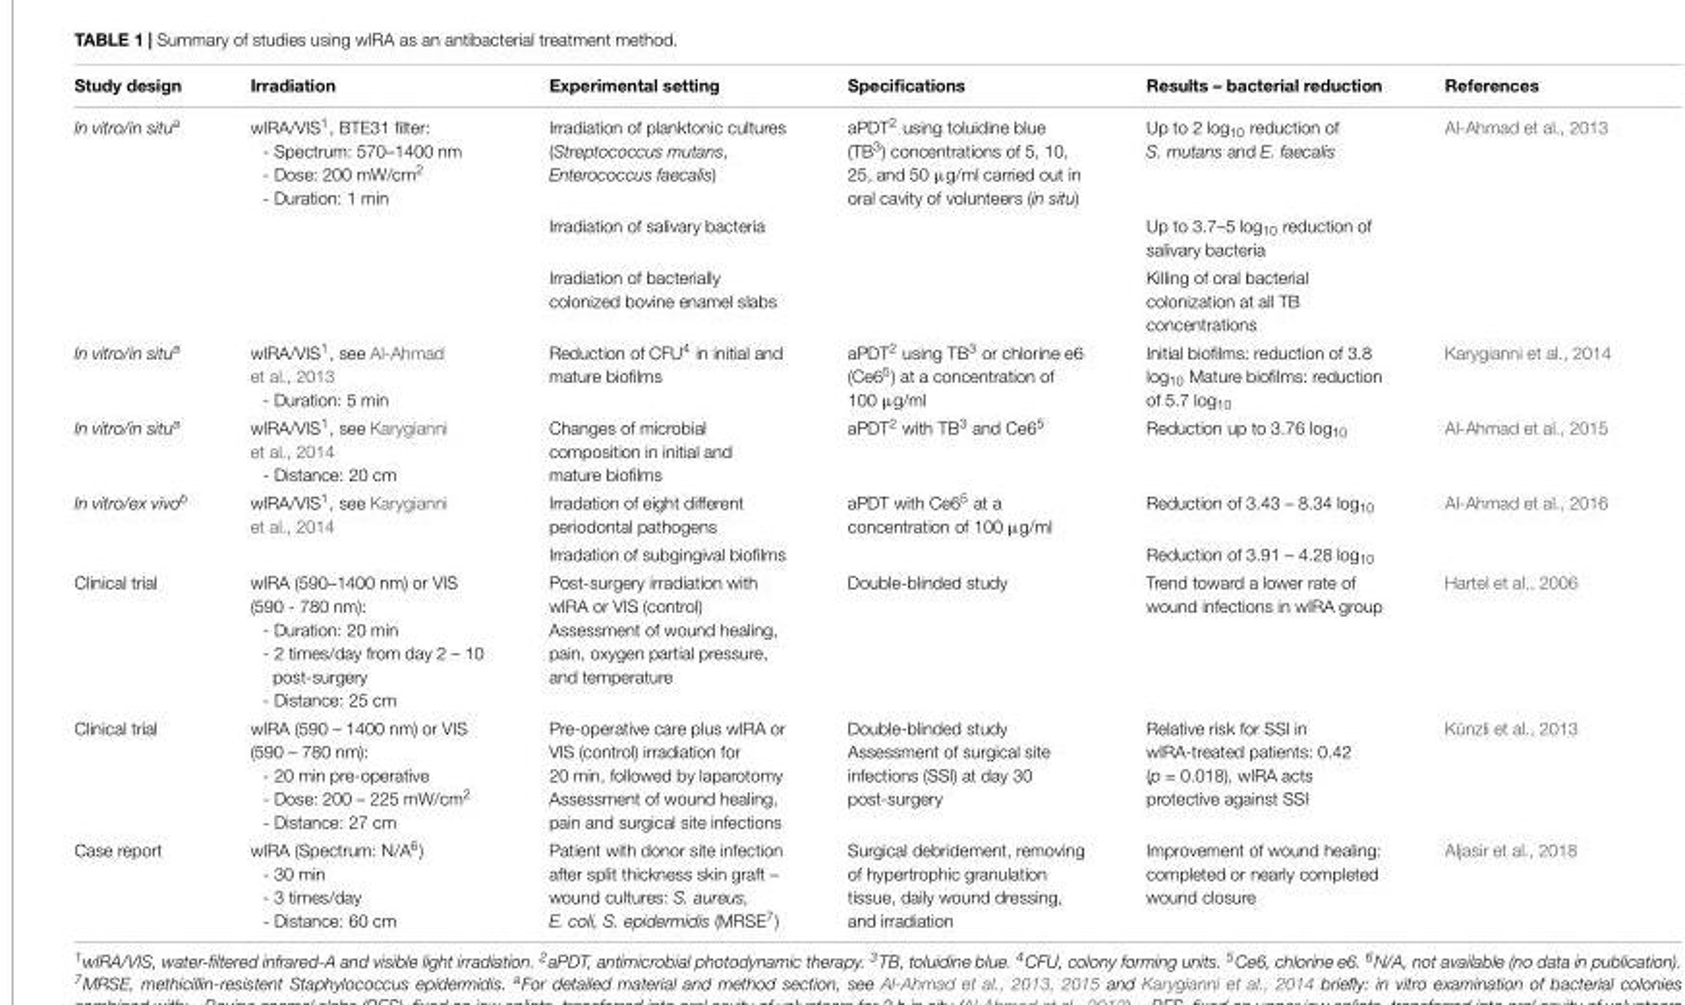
<table><thead><tr><td>Study design</td><td>Irradiation</td><td>Experimental setting</td><td>Specifications</td><td>Results – bacterial reduction</td><td>References</td></tr></thead><tbody><tr><td rowspan="3">In vitro/in situ<sup>a</sup></td><td>wIRA/VIS<sup>1</sup>, BTE31 filter: - Spectrum: 570–1400 nm - Dose: 200 mW/cm<sup>2</sup> - Duration: 1 min</td><td>Irradiation of planktonic cultures (Streptococcus mutans, Enterococcus faecalis)</td><td>aPDT<sup>2</sup> using toluidine blue (TB<sup>3</sup>) concentrations of 5, 10, 25, and 50 µg/ml carried out in oral cavity of volunteers (in situ)</td><td>Up to 2 log<sub>10</sub> reduction of S. mutans and E. faecalis</td><td>Al-Ahmad et al., 2013</td></tr><tr><td></td><td>Irradiation of salivary bacteria</td><td></td><td>Up to 3.7–5 log<sub>10</sub> reduction of salivary bacteria</td><td></td></tr><tr><td></td><td>Irradiation of bacterially colonized bovine enamel slabs</td><td></td><td>Killing of oral bacterial colonization at all TB concentrations</td><td></td></tr><tr><td>In vitro/in situ<sup>a</sup></td><td>wIRA/VIS<sup>1</sup>, see Al-Ahmad et al., 2013 - Duration: 5 min</td><td>Reduction of CFU<sup>4</sup> in initial and mature biofilms</td><td>aPDT<sup>2</sup> using TB<sup>3</sup> or chlorine e6 (Ce6<sup>5</sup>) at a concentration of 100 µg/ml</td><td>Initial biofilms: reduction of 3.8 log<sub>10</sub> Mature biofilms: reduction of 5.7 log<sub>10</sub></td><td>Karygianni et al., 2014</td></tr><tr><td>In vitro/in situ<sup>a</sup></td><td>wIRA/VIS<sup>1</sup>, see Karygianni et al., 2014 - Distance: 20 cm</td><td>Changes of microbial composition in initial and mature biofilms</td><td>aPDT<sup>2</sup> with TB<sup>3</sup> and Ce6<sup>5</sup></td><td>Reduction up to 3.76 log<sub>10</sub></td><td>Al-Ahmad et al., 2015</td></tr><tr><td rowspan="2">In vitro/ex vivo<sup>b</sup></td><td>wIRA/VIS<sup>1</sup>, see Karygianni et al., 2014</td><td>Irradation of eight different periodontal pathogens</td><td>aPDT with Ce6<sup>5</sup> at a concentration of 100 µg/ml</td><td>Reduction of 3.43 – 8.34 log<sub>10</sub></td><td>Al-Ahmad et al., 2016</td></tr><tr><td></td><td>Irradation of subgingival biofilms</td><td></td><td>Reduction of 3.91 – 4.28 log<sub>10</sub></td><td></td></tr><tr><td>Clinical trial</td><td>wIRA (590–1400 nm) or VIS (590 - 780 nm): - Duration: 20 min - 2 times/day from day 2 – 10 post-surgery - Distance: 25 cm</td><td>Post-surgery irradiation with wIRA or VIS (control) Assessment of wound healing, pain, oxygen partial pressure, and temperature</td><td>Double-blinded study</td><td>Trend toward a lower rate of wound infections in wIRA group</td><td>Hartel et al., 2006</td></tr><tr><td>Clinical trial</td><td>wIRA (590 – 1400 nm) or VIS (590 – 780 nm): - 20 min pre-operative - Dose: 200 – 225 mW/cm<sup>2</sup> - Distance: 27 cm</td><td>Pre-operative care plus wIRA or VIS (control) irradiation for 20 min, followed by laparotomy Assessment of wound healing, pain and surgical site infections</td><td>Double-blinded study Assessment of surgical site infections (SSI) at day 30 post-surgery</td><td>Relative risk for SSI in wIRA-treated patients: 0.42 (p = 0.018), wIRA acts protective against SSI</td><td>Künzli et al., 2013</td></tr><tr><td>Case report</td><td>wIRA (Spectrum: N/A<sup>6</sup>) - 30 min - 3 times/day - Distance: 60 cm</td><td>Patient with donor site infection after split thickness skin graft – wound cultures: S. aureus, E. coli, S. epidermidis (MRSE<sup>7</sup>)</td><td>Surgical debridement, removing of hypertrophic granulation tissue, daily wound dressing, and irradiation</td><td>Improvement of wound healing: completed or nearly completed wound closure</td><td>Aljasir et al., 2018</td></tr></tbody></table>